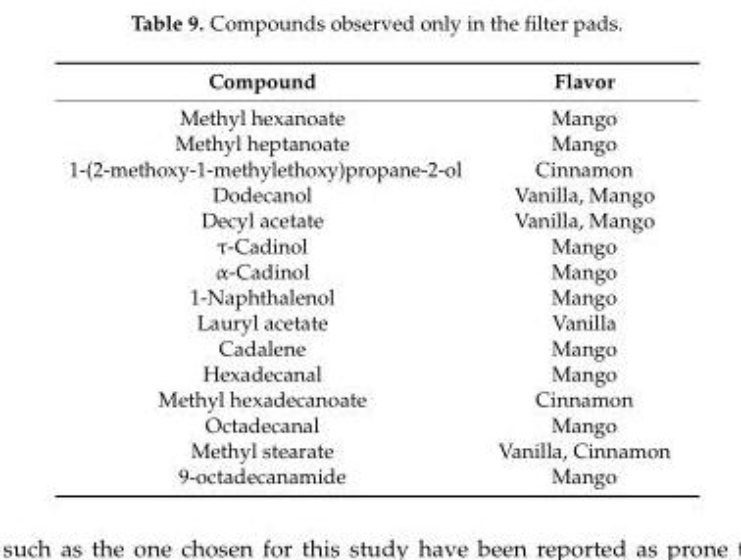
<table><thead><tr><td>Compound</td><td>Flavor</td></tr></thead><tbody><tr><td>Methyl hexanoate</td><td>Mango</td></tr><tr><td>Methyl heptanoate</td><td>Mango</td></tr><tr><td>1-(2-methoxy-1-methylethoxy)propane-2-ol</td><td>Cinnamon</td></tr><tr><td>Dodecanol</td><td>Vanilla, Mango</td></tr><tr><td>Decyl acetate</td><td>Vanilla, Mango</td></tr><tr><td>τ-Cadinol</td><td>Mango</td></tr><tr><td>α-Cadinol</td><td>Mango</td></tr><tr><td>1-Naphthalenol</td><td>Mango</td></tr><tr><td>Lauryl acetate</td><td>Vanilla</td></tr><tr><td>Cadalene</td><td>Mango</td></tr><tr><td>Hexadecanal</td><td>Mango</td></tr><tr><td>Methyl hexadecanoate</td><td>Cinnamon</td></tr><tr><td>Octadecanal</td><td>Mango</td></tr><tr><td>Methyl stearate</td><td>Vanilla, Cinnamon</td></tr><tr><td>9-octadecanamide</td><td>Mango</td></tr></tbody></table>